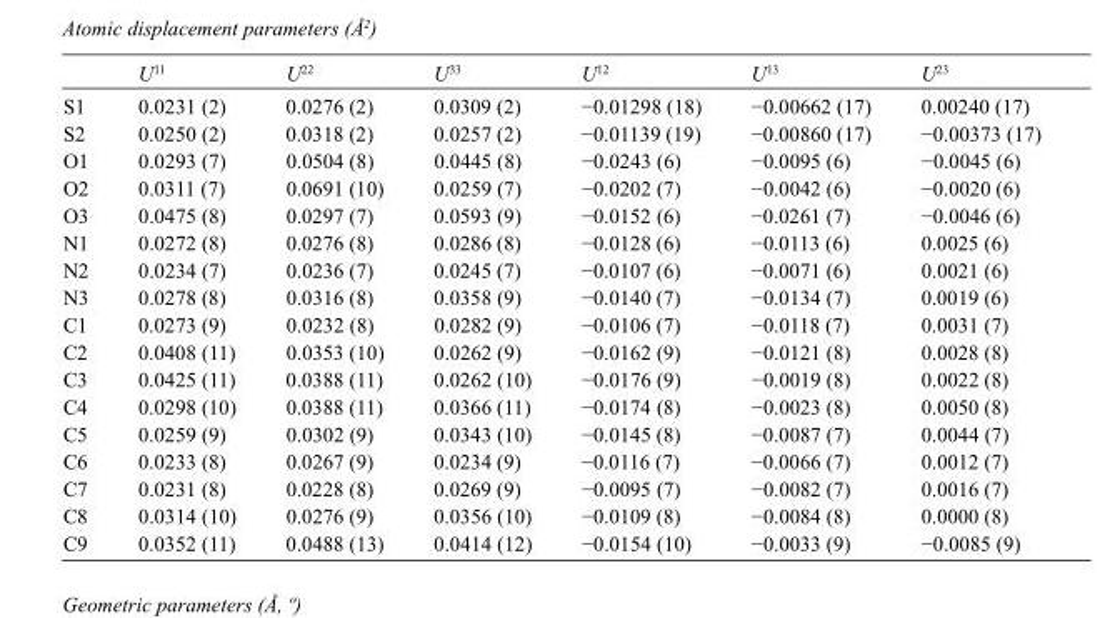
<table><thead><tr><td></td><td>U<sup>11</sup></td><td>U<sup>22</sup></td><td>U<sup>33</sup></td><td>U<sup>12</sup></td><td>U<sup>13</sup></td><td>U<sup>23</sup></td></tr></thead><tbody><tr><td>S1</td><td>0.0231 (2)</td><td>0.0276 (2)</td><td>0.0309 (2)</td><td>−0.01298 (18)</td><td>−0.00662 (17)</td><td>0.00240 (17)</td></tr><tr><td>S2</td><td>0.0250 (2)</td><td>0.0318 (2)</td><td>0.0257 (2)</td><td>−0.01139 (19)</td><td>−0.00860 (17)</td><td>−0.00373 (17)</td></tr><tr><td>O1</td><td>0.0293 (7)</td><td>0.0504 (8)</td><td>0.0445 (8)</td><td>−0.0243 (6)</td><td>−0.0095 (6)</td><td>−0.0045 (6)</td></tr><tr><td>O2</td><td>0.0311 (7)</td><td>0.0691 (10)</td><td>0.0259 (7)</td><td>−0.0202 (7)</td><td>−0.0042 (6)</td><td>−0.0020 (6)</td></tr><tr><td>O3</td><td>0.0475 (8)</td><td>0.0297 (7)</td><td>0.0593 (9)</td><td>−0.0152 (6)</td><td>−0.0261 (7)</td><td>−0.0046 (6)</td></tr><tr><td>N1</td><td>0.0272 (8)</td><td>0.0276 (8)</td><td>0.0286 (8)</td><td>−0.0128 (6)</td><td>−0.0113 (6)</td><td>0.0025 (6)</td></tr><tr><td>N2</td><td>0.0234 (7)</td><td>0.0236 (7)</td><td>0.0245 (7)</td><td>−0.0107 (6)</td><td>−0.0071 (6)</td><td>0.0021 (6)</td></tr><tr><td>N3</td><td>0.0278 (8)</td><td>0.0316 (8)</td><td>0.0358 (9)</td><td>−0.0140 (7)</td><td>−0.0134 (7)</td><td>0.0019 (6)</td></tr><tr><td>C1</td><td>0.0273 (9)</td><td>0.0232 (8)</td><td>0.0282 (9)</td><td>−0.0106 (7)</td><td>−0.0118 (7)</td><td>0.0031 (7)</td></tr><tr><td>C2</td><td>0.0408 (11)</td><td>0.0353 (10)</td><td>0.0262 (9)</td><td>−0.0162 (9)</td><td>−0.0121 (8)</td><td>0.0028 (8)</td></tr><tr><td>C3</td><td>0.0425 (11)</td><td>0.0388 (11)</td><td>0.0262 (10)</td><td>−0.0176 (9)</td><td>−0.0019 (8)</td><td>0.0022 (8)</td></tr><tr><td>C4</td><td>0.0298 (10)</td><td>0.0388 (11)</td><td>0.0366 (11)</td><td>−0.0174 (8)</td><td>−0.0023 (8)</td><td>0.0050 (8)</td></tr><tr><td>C5</td><td>0.0259 (9)</td><td>0.0302 (9)</td><td>0.0343 (10)</td><td>−0.0145 (8)</td><td>−0.0087 (7)</td><td>0.0044 (7)</td></tr><tr><td>C6</td><td>0.0233 (8)</td><td>0.0267 (9)</td><td>0.0234 (9)</td><td>−0.0116 (7)</td><td>−0.0066 (7)</td><td>0.0012 (7)</td></tr><tr><td>C7</td><td>0.0231 (8)</td><td>0.0228 (8)</td><td>0.0269 (9)</td><td>−0.0095 (7)</td><td>−0.0082 (7)</td><td>0.0016 (7)</td></tr><tr><td>C8</td><td>0.0314 (10)</td><td>0.0276 (9)</td><td>0.0356 (10)</td><td>−0.0109 (8)</td><td>−0.0084 (8)</td><td>0.0000 (8)</td></tr><tr><td>C9</td><td>0.0352 (11)</td><td>0.0488 (13)</td><td>0.0414 (12)</td><td>−0.0154 (10)</td><td>−0.0033 (9)</td><td>−0.0085 (9)</td></tr></tbody></table>